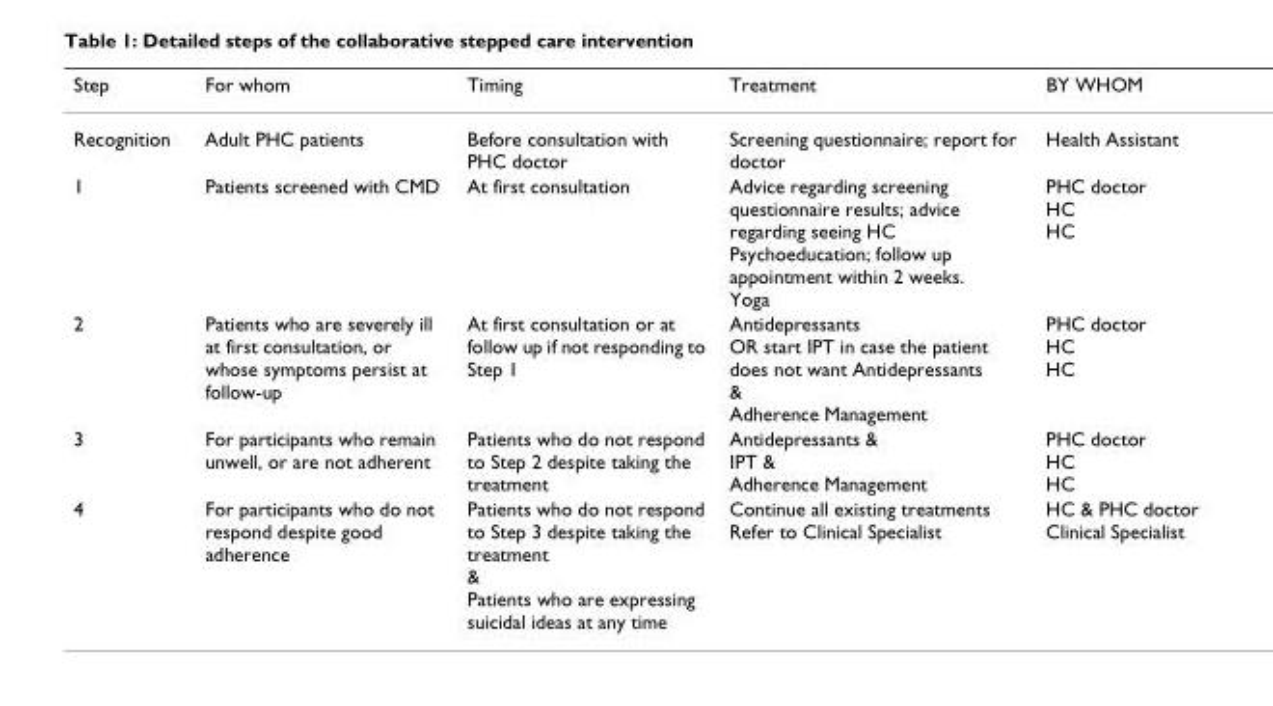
<table><thead><tr><td>Step</td><td>For whom</td><td>Timing</td><td>Treatment</td><td>BY WHOM</td></tr></thead><tbody><tr><td>Recognition</td><td>Adult PHC patients</td><td>Before consultation with PHC doctor</td><td>Screening questionnaire; report for doctor</td><td>Health Assistant</td></tr><tr><td>1</td><td>Patients screened with CMD</td><td>At first consultation</td><td>Advice regarding screening questionnaire results; advice regarding seeing HC Psychoeducation; follow up appointment within 2 weeks. Yoga</td><td>PHC doctor HC HC</td></tr><tr><td>2</td><td>Patients who are severely ill at first consultation, or whose symptoms persist at follow-up</td><td>At first consultation or at follow up if not responding to Step 1</td><td>Antidepressants OR start IPT in case the patient does not want Antidepressants &amp; Adherence Management</td><td>PHC doctor HC HC</td></tr><tr><td>3</td><td>For participants who remain unwell, or are not adherent</td><td>Patients who do not respond to Step 2 despite taking the treatment</td><td>Antidepressants &amp; IPT &amp; Adherence Management</td><td>PHC doctor HC HC</td></tr><tr><td>4</td><td>For participants who do not respond despite good adherence</td><td>Patients who do not respond to Step 3 despite taking the treatment &amp; Patients who are expressing suicidal ideas at any time</td><td>Continue all existing treatments Refer to Clinical Specialist</td><td>HC &amp; PHC doctor Clinical Specialist</td></tr></tbody></table>